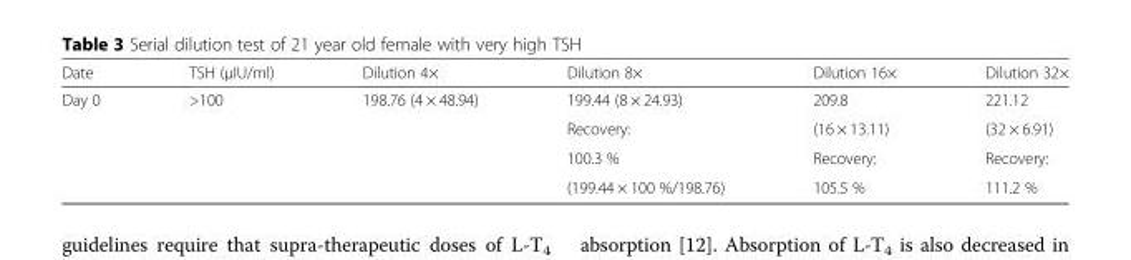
<table><thead><tr><td>Date</td><td>TSH (μIU/ml)</td><td>Dilution 4×</td><td>Dilution 8×</td><td>Dilution 16×</td><td>Dilution 32×</td></tr></thead><tbody><tr><td rowspan="4">Day 0</td><td rowspan="4">&gt;100</td><td rowspan="4">198.76 (4 × 48.94)</td><td>199.44 (8 × 24.93)</td><td>209.8</td><td>221.12</td></tr><tr><td>Recovery:</td><td>(16 × 13.11)</td><td>(32 × 6.91)</td></tr><tr><td>100.3 %</td><td>Recovery:</td><td>Recovery:</td></tr><tr><td>(199.44 × 100 %/198.76)</td><td>105.5 %</td><td>111.2 %</td></tr></tbody></table>